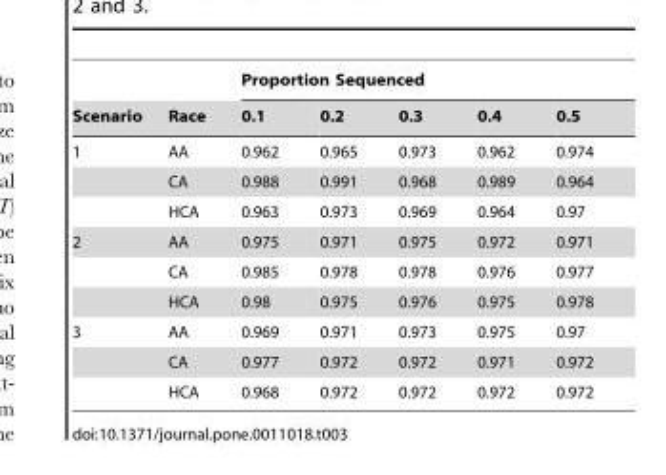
<table><thead><tr><td rowspan="2">Scenario</td><td rowspan="2">Race</td><td colspan="5">Proportion Sequenced</td></tr><tr><td>0.1</td><td>0.2</td><td>0.3</td><td>0.4</td><td>0.5</td></tr></thead><tbody><tr><td rowspan="3">1</td><td>AA</td><td>0.962</td><td>0.965</td><td>0.973</td><td>0.962</td><td>0.974</td></tr><tr><td>CA</td><td>0.988</td><td>0.991</td><td>0.968</td><td>0.989</td><td>0.964</td></tr><tr><td>HCA</td><td>0.963</td><td>0.973</td><td>0.969</td><td>0.964</td><td>0.97</td></tr><tr><td rowspan="3">2</td><td>AA</td><td>0.975</td><td>0.971</td><td>0.975</td><td>0.972</td><td>0.971</td></tr><tr><td>CA</td><td>0.985</td><td>0.978</td><td>0.978</td><td>0.976</td><td>0.977</td></tr><tr><td>HCA</td><td>0.98</td><td>0.975</td><td>0.976</td><td>0.975</td><td>0.978</td></tr><tr><td rowspan="3">3</td><td>AA</td><td>0.969</td><td>0.971</td><td>0.973</td><td>0.975</td><td>0.97</td></tr><tr><td>CA</td><td>0.977</td><td>0.972</td><td>0.972</td><td>0.971</td><td>0.972</td></tr><tr><td>HCA</td><td>0.968</td><td>0.972</td><td>0.972</td><td>0.972</td><td>0.972</td></tr></tbody></table>